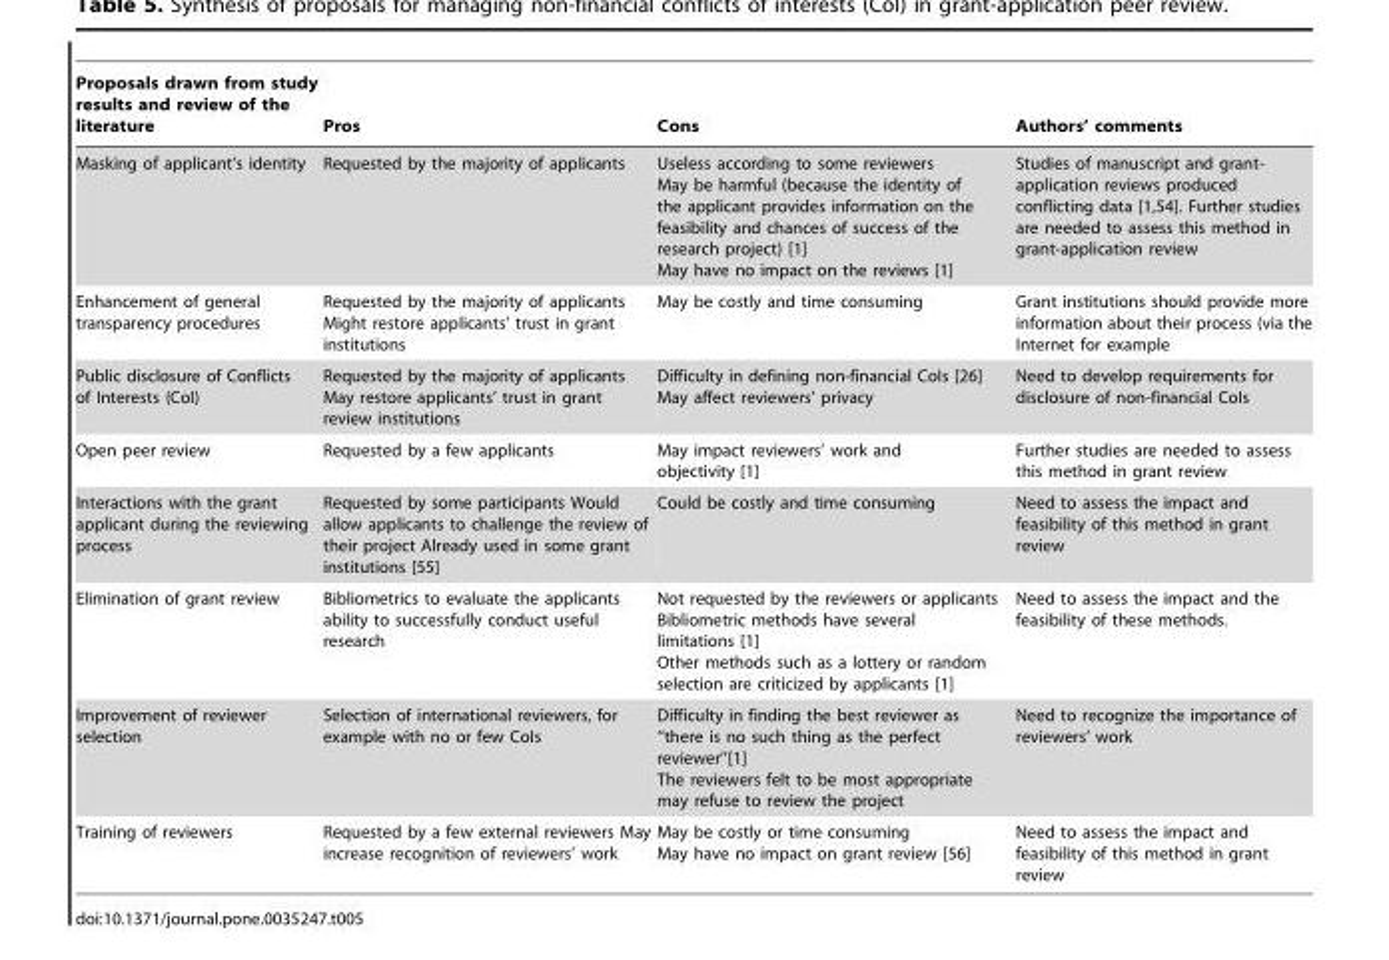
<table><thead><tr><td>Proposals drawn from study results and review of the literature</td><td>Pros</td><td>Cons</td><td>Authors’ comments</td></tr></thead><tbody><tr><td>Masking of applicant’s identity</td><td>Requested by the majority of applicants</td><td>Useless according to some reviewers May be harmful (because the identity of the applicant provides information on the feasibility and chances of success of the research project) [1] May have no impact on the reviews [1]</td><td>Studies of manuscript and grant- application reviews produced conflicting data [1,54]. Further studies are needed to assess this method in grant-application review</td></tr><tr><td>Enhancement of general transparency procedures</td><td>Requested by the majority of applicants Might restore applicants’ trust in grant institutions</td><td>May be costly and time consuming</td><td>Grant institutions should provide more information about their process (via the Internet for example</td></tr><tr><td>Public disclosure of Conflicts of Interests (CoI)</td><td>Requested by the majority of applicants May restore applicants’ trust in grant review institutions</td><td>Difficulty in defining non-financial CoIs [26] May affect reviewers’ privacy</td><td>Need to develop requirements for disclosure of non-financial CoIs</td></tr><tr><td>Open peer review</td><td>Requested by a few applicants</td><td>May impact reviewers’ work and objectivity [1]</td><td>Further studies are needed to assess this method in grant review</td></tr><tr><td>Interactions with the grant applicant during the reviewing process</td><td>Requested by some participants Would allow applicants to challenge the review of their project Already used in some grant institutions [55]</td><td>Could be costly and time consuming</td><td>Need to assess the impact and feasibility of this method in grant review</td></tr><tr><td>Elimination of grant review</td><td>Bibliometrics to evaluate the applicants ability to successfully conduct useful research</td><td>Not requested by the reviewers or applicants Bibliometric methods have several limitations [1] Other methods such as a lottery or random selection are criticized by applicants [1]</td><td>Need to assess the impact and the feasibility of these methods.</td></tr><tr><td>Improvement of reviewer selection</td><td>Selection of international reviewers, for example with no or few CoIs</td><td>Difficulty in finding the best reviewer as ‘‘there is no such thing as the perfect reviewer’’[1] The reviewers felt to be most appropriate may refuse to review the project</td><td>Need to recognize the importance of reviewers’ work</td></tr><tr><td>Training of reviewers</td><td>Requested by a few external reviewers May increase recognition of reviewers’ work</td><td>May be costly or time consuming May have no impact on grant review [56]</td><td>Need to assess the impact and feasibility of this method in grant review</td></tr></tbody></table>